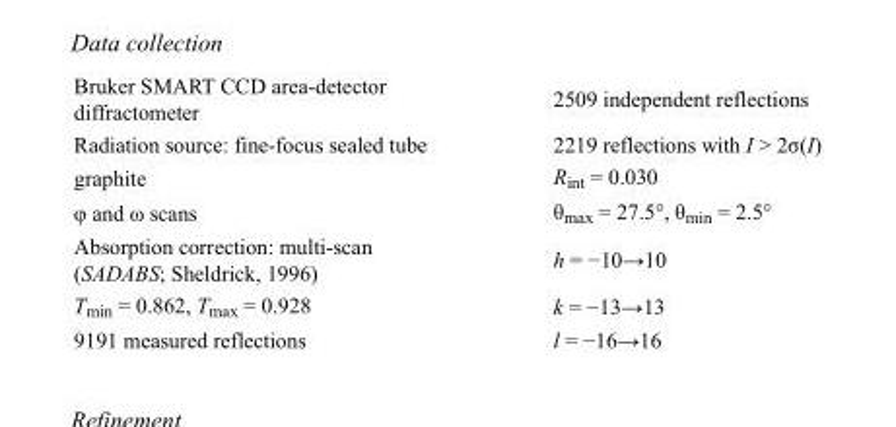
<table><tbody><tr><td>Bruker SMART CCD area-detector diffractometer</td><td>2509 independent reflections</td></tr><tr><td>Radiation source: fine-focus sealed tube</td><td>2219 reflections with I &gt; 2σ(I)</td></tr><tr><td>graphite</td><td>R<sub>int</sub> = 0.030</td></tr><tr><td>φ and ω scans</td><td>θ<sub>max</sub> = 27.5°, θ<sub>min</sub> = 2.5°</td></tr><tr><td>Absorption correction: multi-scan (SADABS; Sheldrick, 1996)</td><td>h = −10→10</td></tr><tr><td>T<sub>min</sub> = 0.862, T<sub>max</sub> = 0.928</td><td>k = −13→13</td></tr><tr><td>9191 measured reflections</td><td>l = −16→16</td></tr></tbody></table>